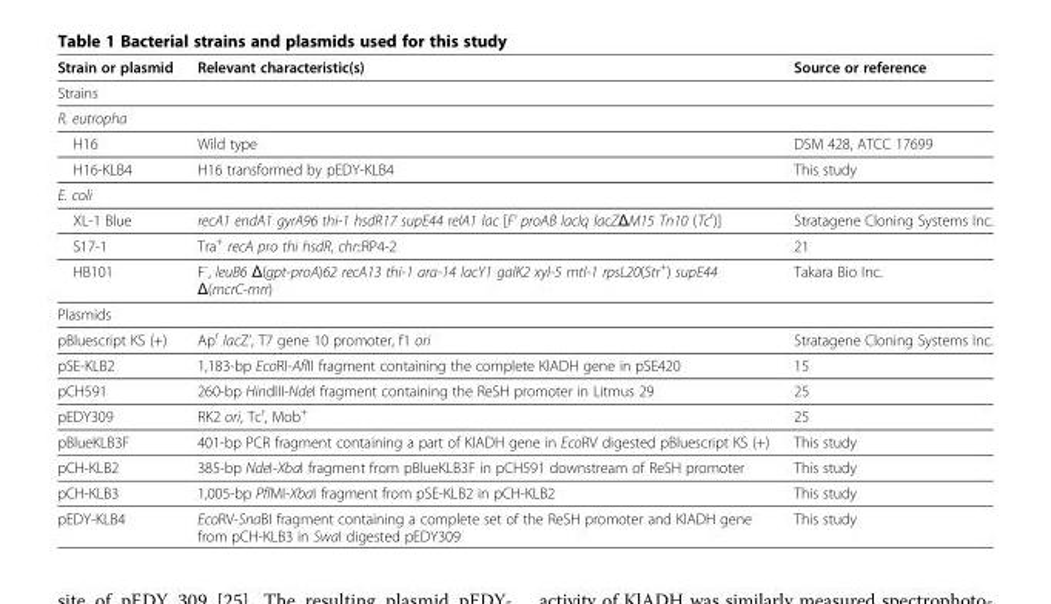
<table><thead><tr><td>Strain or plasmid</td><td>Relevant characteristic(s)</td><td>Source or reference</td></tr></thead><tbody><tr><td colspan="3">Strains</td></tr><tr><td colspan="3">R. eutropha</td></tr><tr><td>H16</td><td>Wild type</td><td>DSM 428, ATCC 17699</td></tr><tr><td>H16-KLB4</td><td>H16 transformed by pEDY-KLB4</td><td>This study</td></tr><tr><td colspan="3">E. coli</td></tr><tr><td>XL-1 Blue</td><td>recA1 endA1 gyrA96 thi-1 hsdR17 supE44 relA1 lac [F’ proAB lacIq lacZΔM15 Tn10 (Tc<sup>r</sup>)]</td><td>Stratagene Cloning Systems Inc.</td></tr><tr><td>S17-1</td><td>Tra<sup>+</sup> recA pro thi hsdR, chr::RP4-2</td><td>21</td></tr><tr><td>HB101</td><td>F<sup>-</sup>, leuB6 Δ(gpt-proA)62 recA13 thi-1 ara-14 lacY1 galK2 xyl-5 mtl-1 rpsL20(Str<sup>+</sup>) supE44 Δ(mcrC-mrr)</td><td>Takara Bio Inc.</td></tr><tr><td colspan="3">Plasmids</td></tr><tr><td>pBluescript KS (+)</td><td>Ap<sup>r</sup> lacZ’, T7 gene 10 promoter, f1 ori</td><td>Stratagene Cloning Systems Inc.</td></tr><tr><td>pSE-KLB2</td><td>1,183-bp EcoRI-AflII fragment containing the complete KlADH gene in pSE420</td><td>15</td></tr><tr><td>pCH591</td><td>260-bp HindIII-NdeI fragment containing the ReSH promoter in Litmus 29</td><td>25</td></tr><tr><td>pEDY309</td><td>RK2 ori, Tc<sup>r</sup>, Mob<sup>+</sup></td><td>25</td></tr><tr><td>pBlueKLB3F</td><td>401-bp PCR fragment containing a part of KlADH gene in EcoRV digested pBluescript KS (+)</td><td>This study</td></tr><tr><td>pCH-KLB2</td><td>385-bp NdeI-XbaI fragment from pBlueKLB3F in pCH591 downstream of ReSH promoter</td><td>This study</td></tr><tr><td>pCH-KLB3</td><td>1,005-bp PflMI-XbaI fragment from pSE-KLB2 in pCH-KLB2</td><td>This study</td></tr><tr><td>pEDY-KLB4</td><td>EcoRV-SnaBI fragment containing a complete set of the ReSH promoter and KlADH gene from pCH-KLB3 in SwaI digested pEDY309</td><td>This study</td></tr></tbody></table>